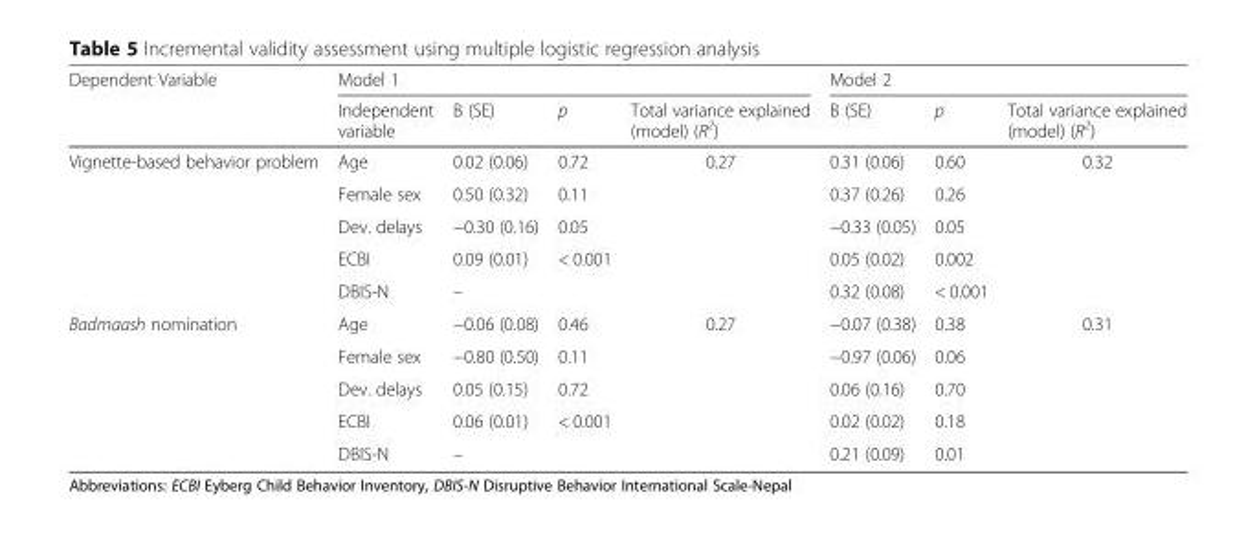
<table><thead><tr><td rowspan="2">Dependent Variable</td><td colspan="4">Model 1</td><td colspan="3">Model 2</td></tr><tr><td>Independent variable</td><td>B (SE)</td><td>p</td><td>Total variance explained (model) (R<sup>2</sup>)</td><td>B (SE)</td><td>p</td><td>Total variance explained (model) (R<sup>2</sup>)</td></tr></thead><tbody><tr><td rowspan="5">Vignette-based behavior problem</td><td>Age</td><td>0.02 (0.06)</td><td>0.72</td><td>0.27</td><td>0.31 (0.06)</td><td>0.60</td><td>0.32</td></tr><tr><td>Female sex</td><td>0.50 (0.32)</td><td>0.11</td><td></td><td>0.37 (0.26)</td><td>0.26</td><td></td></tr><tr><td>Dev. delays</td><td>−0.30 (0.16)</td><td>0.05</td><td></td><td>−0.33 (0.05)</td><td>0.05</td><td></td></tr><tr><td>ECBI</td><td>0.09 (0.01)</td><td>&lt; 0.001</td><td></td><td>0.05 (0.02)</td><td>0.002</td><td></td></tr><tr><td>DBIS-N</td><td>–</td><td></td><td></td><td>0.32 (0.08)</td><td>&lt; 0.001</td><td></td></tr><tr><td rowspan="5">Badmaash nomination</td><td>Age</td><td>−0.06 (0.08)</td><td>0.46</td><td>0.27</td><td>−0.07 (0.38)</td><td>0.38</td><td>0.31</td></tr><tr><td>Female sex</td><td>−0.80 (0.50)</td><td>0.11</td><td></td><td>−0.97 (0.06)</td><td>0.06</td><td></td></tr><tr><td>Dev. delays</td><td>0.05 (0.15)</td><td>0.72</td><td></td><td>0.06 (0.16)</td><td>0.70</td><td></td></tr><tr><td>ECBI</td><td>0.06 (0.01)</td><td>&lt; 0.001</td><td></td><td>0.02 (0.02)</td><td>0.18</td><td></td></tr><tr><td>DBIS-N</td><td>–</td><td></td><td></td><td>0.21 (0.09)</td><td>0.01</td><td></td></tr></tbody></table>